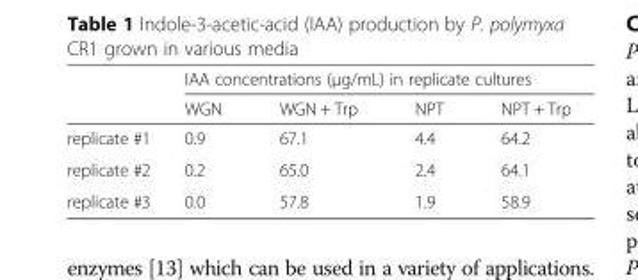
<table><thead><tr><td rowspan="2"></td><td colspan="4">IAA concentrations (μg/mL) in replicate cultures</td></tr><tr><td>WGN</td><td>WGN + Trp</td><td>NPT</td><td>NPT + Trp</td></tr></thead><tbody><tr><td>replicate #1</td><td>0.9</td><td>67.1</td><td>4.4</td><td>64.2</td></tr><tr><td>replicate #2</td><td>0.2</td><td>65.0</td><td>2.4</td><td>64.1</td></tr><tr><td>replicate #3</td><td>0.0</td><td>57.8</td><td>1.9</td><td>58.9</td></tr></tbody></table>